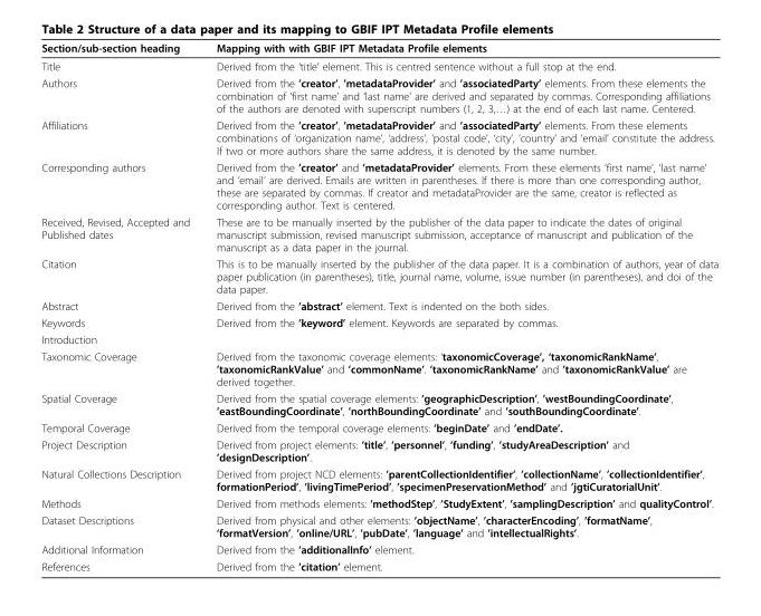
<table><thead><tr><td>Section/sub-section heading</td><td>Mapping with with GBIF IPT Metadata Profile elements</td></tr></thead><tbody><tr><td>Title</td><td>Derived from the ‘title’ element. This is centred sentence without a full stop at the end.</td></tr><tr><td>Authors</td><td>Derived from the ’creator’, ’metadataProvider’ and ’associatedParty’ elements. From these elements the combination of ‘first name’ and ‘last name’ are derived and separated by commas. Corresponding affiliations of the authors are denoted with superscript numbers (1, 2, 3,…) at the end of each last name. Centered.</td></tr><tr><td>Affiliations</td><td>Derived from the ’creator’, ’metadataProvider’ and ’associatedParty’ elements. From these elements combinations of ‘organization name’, ‘address’, ‘postal code’, ‘city’, ‘country’ and ‘email’ constitute the address. If two or more authors share the same address, it is denoted by the same number.</td></tr><tr><td>Corresponding authors</td><td>Derived from the ’creator’ and ’metadataProvider’ elements. From these elements ‘first name’, ‘last name’ and ‘email’ are derived. Emails are written in parentheses. If there is more than one corresponding author, these are separated by commas. If creator and metadataProvider are the same, creator is reflected as corresponding author. Text is centered.</td></tr><tr><td>Received, Revised, Accepted and Published dates</td><td>These are to be manually inserted by the publisher of the data paper to indicate the dates of original manuscript submission, revised manuscript submission, acceptance of manuscript and publication of the manuscript as a data paper in the journal.</td></tr><tr><td>Citation</td><td>This is to be manually inserted by the publisher of the data paper. It is a combination of authors, year of data paper publication (in parentheses), title, journal name, volume, issue number (in parentheses), and doi of the data paper.</td></tr><tr><td>Abstract</td><td>Derived from the ’abstract’ element. Text is indented on the both sides.</td></tr><tr><td>Keywords</td><td>Derived from the ’keyword’ element. Keywords are separated by commas.</td></tr><tr><td colspan="2">Introduction</td></tr><tr><td>Taxonomic Coverage</td><td>Derived from the taxonomic coverage elements: ‘taxonomicCoverage’, ‘taxonomicRankName’, ’taxonomicRankValue’ and ’commonName’. ’taxonomicRankName’ and ’taxonomicRankValue’ are derived together.</td></tr><tr><td>Spatial Coverage</td><td>Derived from the spatial coverage elements: ’geographicDescription’, ’westBoundingCoordinate’, ’eastBoundingCoordinate’, ’northBoundingCoordinate’ and ’southBoundingCoordinate’.</td></tr><tr><td>Temporal Coverage</td><td>Derived from the temporal coverage elements: ’beginDate’ and ’endDate’.</td></tr><tr><td>Project Description</td><td>Derived from project elements: ’title’, ’personnel’, ’funding’, ’studyAreaDescription’ and ’designDescription’.</td></tr><tr><td>Natural Collections Description</td><td>Derived from project NCD elements: ’parentCollectionIdentifier’, ’collectionName’, ’collectionIdentifier’, formationPeriod’, ’livingTimePeriod’, ’specimenPreservationMethod’ and ’jgtiCuratorialUnit’.</td></tr><tr><td>Methods</td><td>Derived from methods elements: ’methodStep’, ’StudyExtent’, ’samplingDescription’ and qualityControl’.</td></tr><tr><td>Dataset Descriptions</td><td>Derived from physical and other elements: ’objectName’, ’characterEncoding’, ’formatName’, ’formatVersion’, ’online/URL’, ’pubDate’, ’language’ and ’intellectualRights’.</td></tr><tr><td>Additional Information</td><td>Derived from the ’additionalInfo’ element.</td></tr><tr><td>References</td><td>Derived from the ’citation’ element.</td></tr></tbody></table>